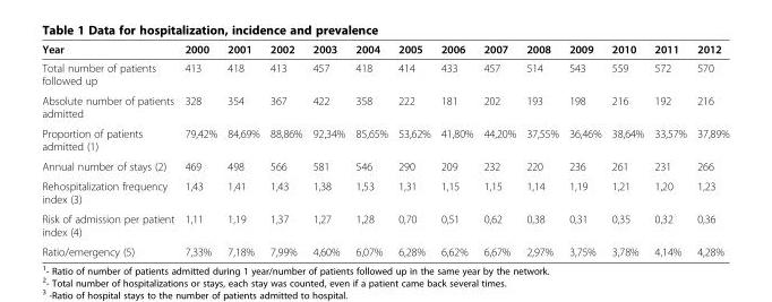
<table><thead><tr><td>Year</td><td>2000</td><td>2001</td><td>2002</td><td>2003</td><td>2004</td><td>2005</td><td>2006</td><td>2007</td><td>2008</td><td>2009</td><td>2010</td><td>2011</td><td>2012</td></tr></thead><tbody><tr><td>Total number of patients followed up</td><td>413</td><td>418</td><td>413</td><td>457</td><td>418</td><td>414</td><td>433</td><td>457</td><td>514</td><td>543</td><td>559</td><td>572</td><td>570</td></tr><tr><td>Absolute number of patients admitted</td><td>328</td><td>354</td><td>367</td><td>422</td><td>358</td><td>222</td><td>181</td><td>202</td><td>193</td><td>198</td><td>216</td><td>192</td><td>216</td></tr><tr><td>Proportion of patients admitted (1)</td><td>79,42%</td><td>84,69%</td><td>88,86%</td><td>92,34%</td><td>85,65%</td><td>53,62%</td><td>41,80%</td><td>44,20%</td><td>37,55%</td><td>36,46%</td><td>38,64%</td><td>33,57%</td><td>37,89%</td></tr><tr><td>Annual number of stays (2)</td><td>469</td><td>498</td><td>566</td><td>581</td><td>546</td><td>290</td><td>209</td><td>232</td><td>220</td><td>236</td><td>261</td><td>231</td><td>266</td></tr><tr><td>Rehospitalization frequency index (3)</td><td>1,43</td><td>1,41</td><td>1,43</td><td>1,38</td><td>1,53</td><td>1,31</td><td>1,15</td><td>1,15</td><td>1,14</td><td>1,19</td><td>1,21</td><td>1,20</td><td>1,23</td></tr><tr><td>Risk of admission per patient index (4)</td><td>1,11</td><td>1,19</td><td>1,37</td><td>1,27</td><td>1,28</td><td>0,70</td><td>0,51</td><td>0,62</td><td>0,38</td><td>0,31</td><td>0,35</td><td>0,32</td><td>0,36</td></tr><tr><td>Ratio/emergency (5)</td><td>7,33%</td><td>7,18%</td><td>7,99%</td><td>4,60%</td><td>6,07%</td><td>6,28%</td><td>6,62%</td><td>6,67%</td><td>2,97%</td><td>3,75%</td><td>3,78%</td><td>4,14%</td><td>4,28%</td></tr></tbody></table>